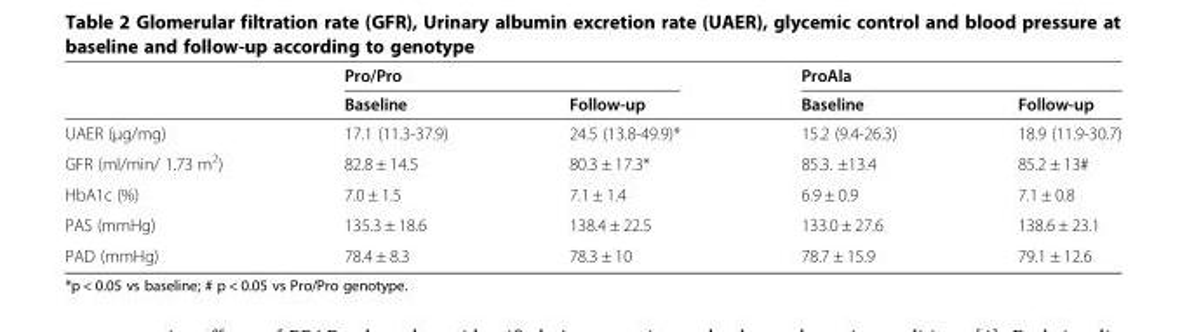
<table><thead><tr><td rowspan="2"></td><td colspan="2">Pro/Pro</td><td colspan="2">ProAla</td></tr><tr><td>Baseline</td><td>Follow-up</td><td>Baseline</td><td>Follow-up</td></tr></thead><tbody><tr><td>UAER (μg/mg)</td><td>17.1 (11.3-37.9)</td><td>24.5 (13.8-49.9)*</td><td>15.2 (9.4-26.3)</td><td>18.9 (11.9-30.7)</td></tr><tr><td>GFR (ml/min/ 1.73 m<sup>2</sup>)</td><td>82.8 ± 14.5</td><td>80.3 ± 17.3*</td><td>85.3. ±13.4</td><td>85.2 ± 13#</td></tr><tr><td>HbA1c (%)</td><td>7.0 ± 1.5</td><td>7.1 ± 1.4</td><td>6.9 ± 0.9</td><td>7.1 ± 0.8</td></tr><tr><td>PAS (mmHg)</td><td>135.3 ± 18.6</td><td>138.4 ± 22.5</td><td>133.0 ± 27.6</td><td>138.6 ± 23.1</td></tr><tr><td>PAD (mmHg)</td><td>78.4 ± 8.3</td><td>78.3 ± 10</td><td>78.7 ± 15.9</td><td>79.1 ± 12.6</td></tr></tbody></table>